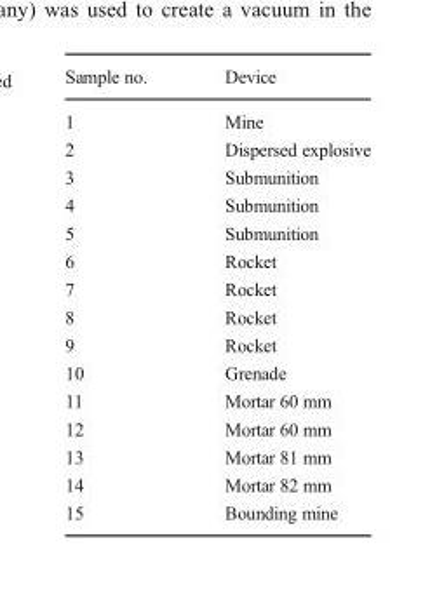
<table><thead><tr><td>Sample no.</td><td>Device</td></tr></thead><tbody><tr><td>1</td><td>Mine</td></tr><tr><td>2</td><td>Dispersed explosive</td></tr><tr><td>3</td><td>Submunition</td></tr><tr><td>4</td><td>Submunition</td></tr><tr><td>5</td><td>Submunition</td></tr><tr><td>6</td><td>Rocket</td></tr><tr><td>7</td><td>Rocket</td></tr><tr><td>8</td><td>Rocket</td></tr><tr><td>9</td><td>Rocket</td></tr><tr><td>10</td><td>Grenade</td></tr><tr><td>11</td><td>Mortar 60 mm</td></tr><tr><td>12</td><td>Mortar 60 mm</td></tr><tr><td>13</td><td>Mortar 81 mm</td></tr><tr><td>14</td><td>Mortar 82 mm</td></tr><tr><td>15</td><td>Bounding mine</td></tr></tbody></table>